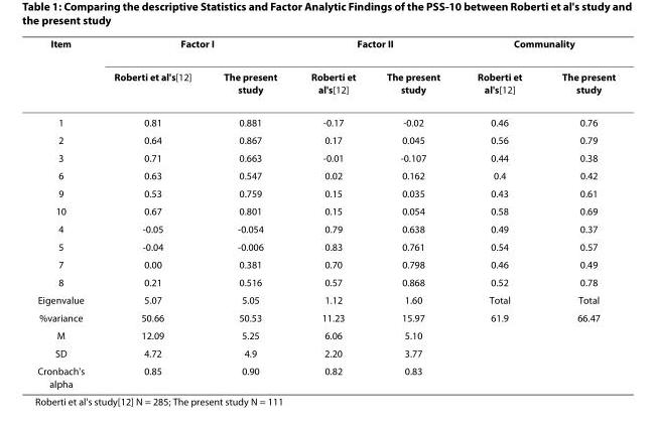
<table><thead><tr><td rowspan="2">Item</td><td colspan="2">Factor I</td><td colspan="2">Factor II</td><td colspan="2">Communality</td></tr><tr><td>Roberti et al&#x27;s[12]</td><td>The present study</td><td>Roberti et al&#x27;s[12]</td><td>The present study</td><td>Roberti et al&#x27;s[12]</td><td>The present study</td></tr></thead><tbody><tr><td>1</td><td>0.81</td><td>0.881</td><td>-0.17</td><td>-0.02</td><td>0.46</td><td>0.76</td></tr><tr><td>2</td><td>0.64</td><td>0.867</td><td>0.17</td><td>0.045</td><td>0.56</td><td>0.79</td></tr><tr><td>3</td><td>0.71</td><td>0.663</td><td>-0.01</td><td>-0.107</td><td>0.44</td><td>0.38</td></tr><tr><td>6</td><td>0.63</td><td>0.547</td><td>0.02</td><td>0.162</td><td>0.4</td><td>0.42</td></tr><tr><td>9</td><td>0.53</td><td>0.759</td><td>0.15</td><td>0.035</td><td>0.43</td><td>0.61</td></tr><tr><td>10</td><td>0.67</td><td>0.801</td><td>0.15</td><td>0.054</td><td>0.58</td><td>0.69</td></tr><tr><td>4</td><td>-0.05</td><td>-0.054</td><td>0.79</td><td>0.638</td><td>0.49</td><td>0.37</td></tr><tr><td>5</td><td>-0.04</td><td>-0.006</td><td>0.83</td><td>0.761</td><td>0.54</td><td>0.57</td></tr><tr><td>7</td><td>0.00</td><td>0.381</td><td>0.70</td><td>0.798</td><td>0.46</td><td>0.49</td></tr><tr><td>8</td><td>0.21</td><td>0.516</td><td>0.57</td><td>0.868</td><td>0.52</td><td>0.78</td></tr><tr><td>Eigenvalue</td><td>5.07</td><td>5.05</td><td>1.12</td><td>1.60</td><td>Total</td><td>Total</td></tr><tr><td>%variance</td><td>50.66</td><td>50.53</td><td>11.23</td><td>15.97</td><td>61.9</td><td>66.47</td></tr><tr><td>M</td><td>12.09</td><td>5.25</td><td>6.06</td><td>5.10</td><td></td><td></td></tr><tr><td>SD</td><td>4.72</td><td>4.9</td><td>2.20</td><td>3.77</td><td></td><td></td></tr><tr><td>Cronbach&#x27;s alpha</td><td>0.85</td><td>0.90</td><td>0.82</td><td>0.83</td><td></td><td></td></tr></tbody></table>